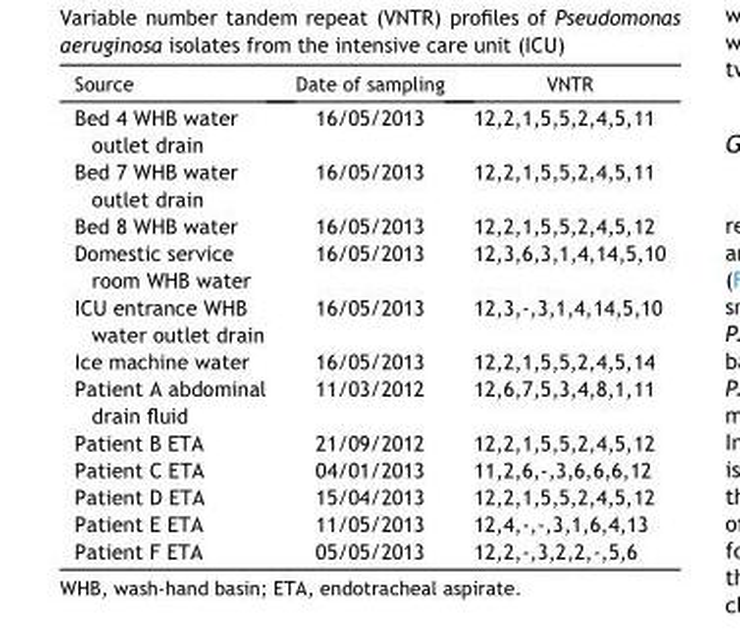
<table><thead><tr><td>Source</td><td>Date of sampling</td><td>VNTR</td></tr></thead><tbody><tr><td>Bed 4 WHB water outlet drain</td><td>16/05/2013</td><td>12,2,1,5,5,2,4,5,11</td></tr><tr><td>Bed 7 WHB water outlet drain</td><td>16/05/2013</td><td>12,2,1,5,5,2,4,5,11</td></tr><tr><td>Bed 8 WHB water</td><td>16/05/2013</td><td>12,2,1,5,5,2,4,5,12</td></tr><tr><td>Domestic service room WHB water</td><td>16/05/2013</td><td>12,3,6,3,1,4,14,5,10</td></tr><tr><td>ICU entrance WHB water outlet drain</td><td>16/05/2013</td><td>12,3,-,3,1,4,14,5,10</td></tr><tr><td>Ice machine water</td><td>16/05/2013</td><td>12,2,1,5,5,2,4,5,14</td></tr><tr><td>Patient A abdominal drain fluid</td><td>11/03/2012</td><td>12,6,7,5,3,4,8,1,11</td></tr><tr><td>Patient B ETA</td><td>21/09/2012</td><td>12,2,1,5,5,2,4,5,12</td></tr><tr><td>Patient C ETA</td><td>04/01/2013</td><td>11,2,6,-,3,6,6,6,12</td></tr><tr><td>Patient D ETA</td><td>15/04/2013</td><td>12,2,1,5,5,2,4,5,12</td></tr><tr><td>Patient E ETA</td><td>11/05/2013</td><td>12,4,-,-,3,1,6,4,13</td></tr><tr><td>Patient F ETA</td><td>05/05/2013</td><td>12,2,-,3,2,2,-,5,6</td></tr></tbody></table>